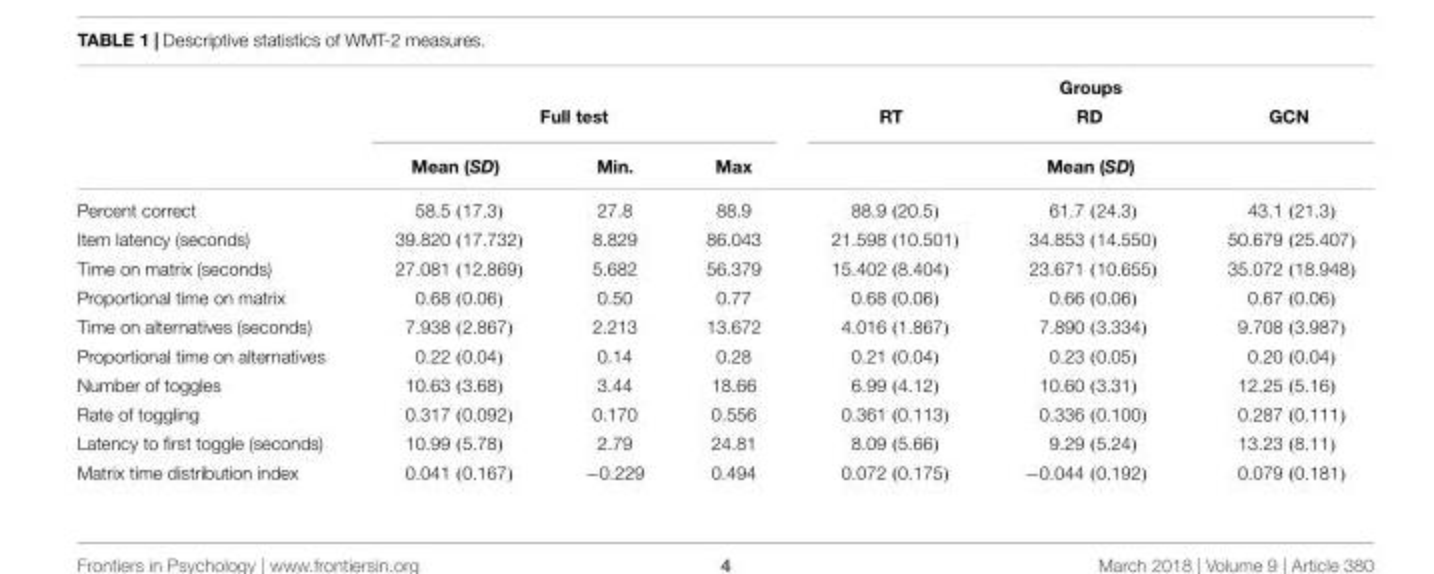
<table><thead><tr><td rowspan="3"></td><td></td><td></td><td></td><td colspan="3">Groups</td></tr><tr><td colspan="3">Full test</td><td>RT</td><td>RD</td><td>GCN</td></tr><tr><td>Mean (SD)</td><td>Min.</td><td>Max</td><td colspan="3">Mean (SD)</td></tr></thead><tbody><tr><td>Percent correct</td><td>58.5 (17.3)</td><td>27.8</td><td>88.9</td><td>88.9 (20.5)</td><td>61.7 (24.3)</td><td>43.1 (21.3)</td></tr><tr><td>Item latency (seconds)</td><td>39.820 (17.732)</td><td>8.829</td><td>86.043</td><td>21.598 (10.501)</td><td>34.853 (14.550)</td><td>50.679 (25.407)</td></tr><tr><td>Time on matrix (seconds)</td><td>27.081 (12.869)</td><td>5.682</td><td>56.379</td><td>15.402 (8.404)</td><td>23.671 (10.655)</td><td>35.072 (18.948)</td></tr><tr><td>Proportional time on matrix</td><td>0.68 (0.06)</td><td>0.50</td><td>0.77</td><td>0.68 (0.06)</td><td>0.66 (0.06)</td><td>0.67 (0.06)</td></tr><tr><td>Time on alternatives (seconds)</td><td>7.938 (2.867)</td><td>2.213</td><td>13.672</td><td>4.016 (1.867)</td><td>7.890 (3.334)</td><td>9.708 (3.987)</td></tr><tr><td>Proportional time on alternatives</td><td>0.22 (0.04)</td><td>0.14</td><td>0.28</td><td>0.21 (0.04)</td><td>0.23 (0.05)</td><td>0.20 (0.04)</td></tr><tr><td>Number of toggles</td><td>10.63 (3.68)</td><td>3.44</td><td>18.66</td><td>6.99 (4.12)</td><td>10.60 (3.31)</td><td>12.25 (5.16)</td></tr><tr><td>Rate of toggling</td><td>0.317 (0.092)</td><td>0.170</td><td>0.556</td><td>0.361 (0.113)</td><td>0.336 (0.100)</td><td>0.287 (0.111)</td></tr><tr><td>Latency to first toggle (seconds)</td><td>10.99 (5.78)</td><td>2.79</td><td>24.81</td><td>8.09 (5.66)</td><td>9.29 (5.24)</td><td>13.23 (8.11)</td></tr><tr><td>Matrix time distribution index</td><td>0.041 (0.167)</td><td>−0.229</td><td>0.494</td><td>0.072 (0.175)</td><td>−0.044 (0.192)</td><td>0.079 (0.181)</td></tr></tbody></table>